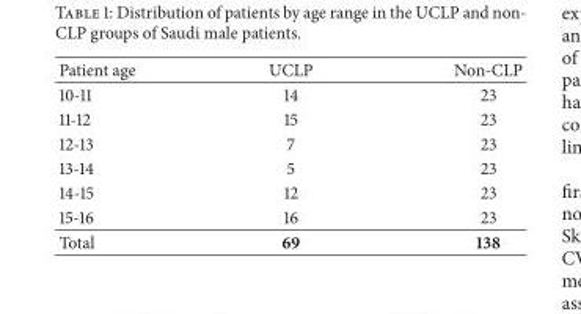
<table><thead><tr><td>Patient age</td><td>UCLP</td><td>Non-CLP</td></tr></thead><tbody><tr><td>10-11</td><td>14</td><td>23</td></tr><tr><td>11-12</td><td>15</td><td>23</td></tr><tr><td>12-13</td><td>7</td><td>23</td></tr><tr><td>13-14</td><td>5</td><td>23</td></tr><tr><td>14-15</td><td>12</td><td>23</td></tr><tr><td>15-16</td><td>16</td><td>23</td></tr><tr><td>Total</td><td>69</td><td>138</td></tr></tbody></table>